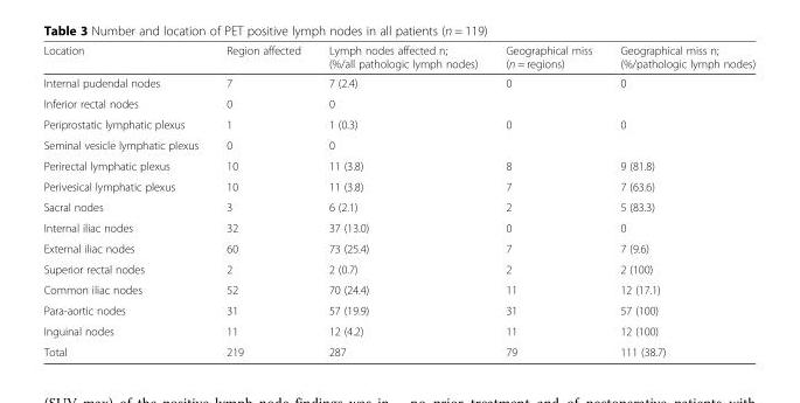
<table><thead><tr><td>Location</td><td>Region affected</td><td>Lymph nodes affected n; (%/all pathologic lymph nodes)</td><td>Geographical miss (n = regions)</td><td>Geographical miss n; (%/pathologic lymph nodes)</td></tr></thead><tbody><tr><td>Internal pudendal nodes</td><td>7</td><td>7 (2.4)</td><td>0</td><td>0</td></tr><tr><td>Inferior rectal nodes</td><td>0</td><td>0</td><td></td><td></td></tr><tr><td>Periprostatic lymphatic plexus</td><td>1</td><td>1 (0.3)</td><td>0</td><td>0</td></tr><tr><td>Seminal vesicle lymphatic plexus</td><td>0</td><td>0</td><td></td><td></td></tr><tr><td>Perirectal lymphatic plexus</td><td>10</td><td>11 (3.8)</td><td>8</td><td>9 (81.8)</td></tr><tr><td>Perivesical lymphatic plexus</td><td>10</td><td>11 (3.8)</td><td>7</td><td>7 (63.6)</td></tr><tr><td>Sacral nodes</td><td>3</td><td>6 (2.1)</td><td>2</td><td>5 (83.3)</td></tr><tr><td>Internal iliac nodes</td><td>32</td><td>37 (13.0)</td><td>0</td><td>0</td></tr><tr><td>External iliac nodes</td><td>60</td><td>73 (25.4)</td><td>7</td><td>7 (9.6)</td></tr><tr><td>Superior rectal nodes</td><td>2</td><td>2 (0.7)</td><td>2</td><td>2 (100)</td></tr><tr><td>Common iliac nodes</td><td>52</td><td>70 (24.4)</td><td>11</td><td>12 (17.1)</td></tr><tr><td>Para-aortic nodes</td><td>31</td><td>57 (19.9)</td><td>31</td><td>57 (100)</td></tr><tr><td>Inguinal nodes</td><td>11</td><td>12 (4.2)</td><td>11</td><td>12 (100)</td></tr><tr><td>Total</td><td>219</td><td>287</td><td>79</td><td>111 (38.7)</td></tr></tbody></table>